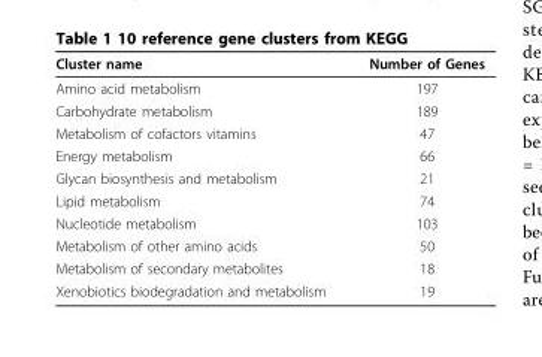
<table><thead><tr><td>Cluster name</td><td>Number of Genes</td></tr></thead><tbody><tr><td>Amino acid metabolism</td><td>197</td></tr><tr><td>Carbohydrate metabolism</td><td>189</td></tr><tr><td>Metabolism of cofactors vitamins</td><td>47</td></tr><tr><td>Energy metabolism</td><td>66</td></tr><tr><td>Glycan biosynthesis and metabolism</td><td>21</td></tr><tr><td>Lipid metabolism</td><td>74</td></tr><tr><td>Nucleotide metabolism</td><td>103</td></tr><tr><td>Metabolism of other amino acids</td><td>50</td></tr><tr><td>Metabolism of secondary metabolites</td><td>18</td></tr><tr><td>Xenobiotics biodegradation and metabolism</td><td>19</td></tr></tbody></table>